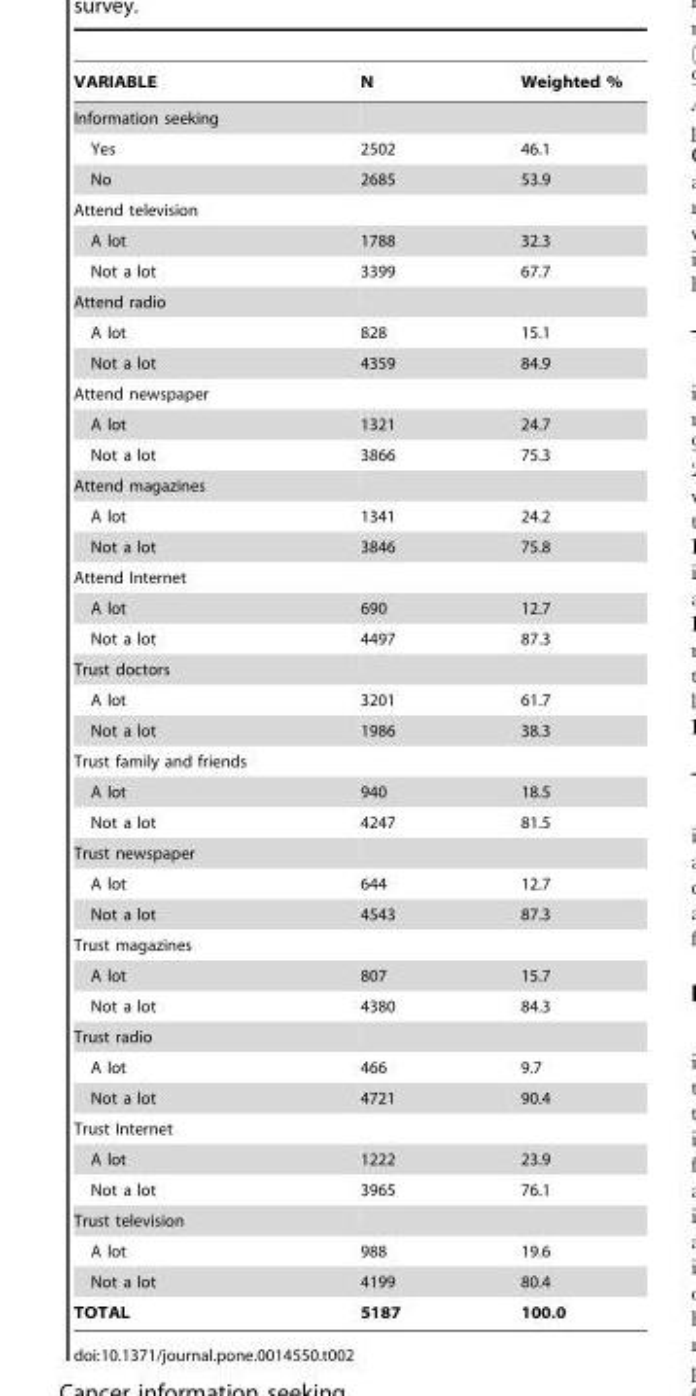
<table><thead><tr><td>VARIABLE</td><td>N</td><td>Weighted %</td></tr></thead><tbody><tr><td colspan="3">Information seeking</td></tr><tr><td>Yes</td><td>2502</td><td>46.1</td></tr><tr><td>No</td><td>2685</td><td>53.9</td></tr><tr><td colspan="3">Attend television</td></tr><tr><td>A lot</td><td>1788</td><td>32.3</td></tr><tr><td>Not a lot</td><td>3399</td><td>67.7</td></tr><tr><td colspan="3">Attend radio</td></tr><tr><td>A lot</td><td>828</td><td>15.1</td></tr><tr><td>Not a lot</td><td>4359</td><td>84.9</td></tr><tr><td colspan="3">Attend newspaper</td></tr><tr><td>A lot</td><td>1321</td><td>24.7</td></tr><tr><td>Not a lot</td><td>3866</td><td>75.3</td></tr><tr><td colspan="3">Attend magazines</td></tr><tr><td>A lot</td><td>1341</td><td>24.2</td></tr><tr><td>Not a lot</td><td>3846</td><td>75.8</td></tr><tr><td colspan="3">Attend Internet</td></tr><tr><td>A lot</td><td>690</td><td>12.7</td></tr><tr><td>Not a lot</td><td>4497</td><td>87.3</td></tr><tr><td colspan="3">Trust doctors</td></tr><tr><td>A lot</td><td>3201</td><td>61.7</td></tr><tr><td>Not a lot</td><td>1986</td><td>38.3</td></tr><tr><td colspan="3">Trust family and friends</td></tr><tr><td>A lot</td><td>940</td><td>18.5</td></tr><tr><td>Not a lot</td><td>4247</td><td>81.5</td></tr><tr><td colspan="3">Trust newspaper</td></tr><tr><td>A lot</td><td>644</td><td>12.7</td></tr><tr><td>Not a lot</td><td>4543</td><td>87.3</td></tr><tr><td colspan="3">Trust magazines</td></tr><tr><td>A lot</td><td>807</td><td>15.7</td></tr><tr><td>Not a lot</td><td>4380</td><td>84.3</td></tr><tr><td colspan="3">Trust radio</td></tr><tr><td>A lot</td><td>466</td><td>9.7</td></tr><tr><td>Not a lot</td><td>4721</td><td>90.4</td></tr><tr><td colspan="3">Trust Internet</td></tr><tr><td>A lot</td><td>1222</td><td>23.9</td></tr><tr><td>Not a lot</td><td>3965</td><td>76.1</td></tr><tr><td colspan="3">Trust television</td></tr><tr><td>A lot</td><td>988</td><td>19.6</td></tr><tr><td>Not a lot</td><td>4199</td><td>80.4</td></tr><tr><td>TOTAL</td><td>5187</td><td>100.0</td></tr></tbody></table>